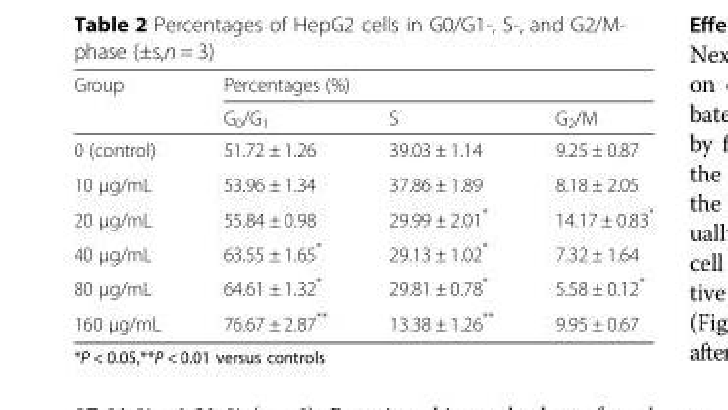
<table><thead><tr><td rowspan="2">Group</td><td colspan="3">Percentages (%)</td></tr><tr><td>G<sub>0</sub>/G<sub>1</sub></td><td>S</td><td>G<sub>2</sub>/M</td></tr></thead><tbody><tr><td>0 (control)</td><td>51.72 ± 1.26</td><td>39.03 ± 1.14</td><td>9.25 ± 0.87</td></tr><tr><td>10 μg/mL</td><td>53.96 ± 1.34</td><td>37.86 ± 1.89</td><td>8.18 ± 2.05</td></tr><tr><td>20 μg/mL</td><td>55.84 ± 0.98</td><td>29.99 ± 2.01*</td><td>14.17 ± 0.83*</td></tr><tr><td>40 μg/mL</td><td>63.55 ± 1.65*</td><td>29.13 ± 1.02*</td><td>7.32 ± 1.64</td></tr><tr><td>80 μg/mL</td><td>64.61 ± 1.32*</td><td>29.81 ± 0.78*</td><td>5.58 ± 0.12*</td></tr><tr><td>160 μg/mL</td><td>76.67 ± 2.87**</td><td>13.38 ± 1.26**</td><td>9.95 ± 0.67</td></tr></tbody></table>